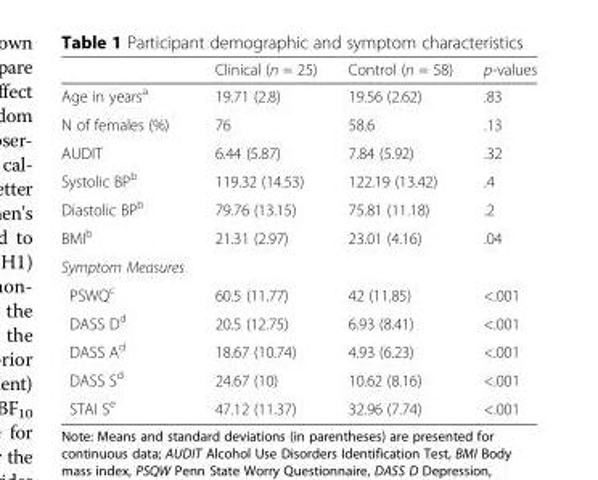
<table><thead><tr><td></td><td>Clinical (n = 25)</td><td>Control (n = 58)</td><td>p-values</td></tr></thead><tbody><tr><td>Age in years<sup>a</sup></td><td>19.71 (2.8)</td><td>19.56 (2.62)</td><td>.83</td></tr><tr><td>N of females (%)</td><td>76</td><td>58.6</td><td>.13</td></tr><tr><td>AUDIT</td><td>6.44 (5.87)</td><td>7.84 (5.92)</td><td>.32</td></tr><tr><td>Systolic BP<sup>b</sup></td><td>119.32 (14.53)</td><td>122.19 (13.42)</td><td>.4</td></tr><tr><td>Diastolic BP<sup>b</sup></td><td>79.76 (13.15)</td><td>75.81 (11.18)</td><td>.2</td></tr><tr><td>BMI<sup>b</sup></td><td>21.31 (2.97)</td><td>23.01 (4.16)</td><td>.04</td></tr><tr><td colspan="4">Symptom Measures</td></tr><tr><td>PSWQ<sup>c</sup></td><td>60.5 (11.77)</td><td>42 (11.85)</td><td>&lt;.001</td></tr><tr><td>DASS D<sup>d</sup></td><td>20.5 (12.75)</td><td>6.93 (8.41)</td><td>&lt;.001</td></tr><tr><td>DASS A<sup>d</sup></td><td>18.67 (10.74)</td><td>4.93 (6.23)</td><td>&lt;.001</td></tr><tr><td>DASS S<sup>d</sup></td><td>24.67 (10)</td><td>10.62 (8.16)</td><td>&lt;.001</td></tr><tr><td>STAI S<sup>e</sup></td><td>47.12 (11.37)</td><td>32.96 (7.74)</td><td>&lt;.001</td></tr></tbody></table>